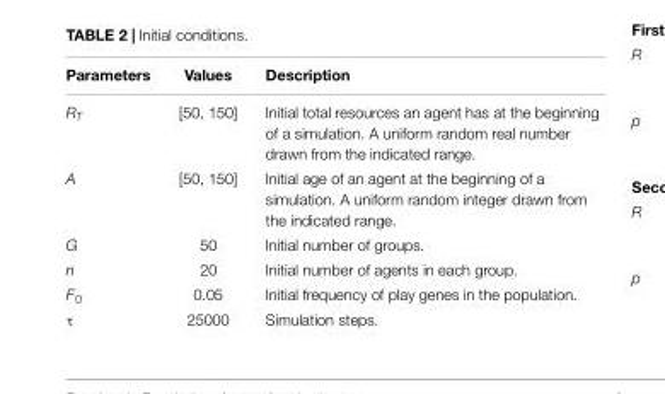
<table><thead><tr><td>Parameters</td><td>Values</td><td>Description</td></tr></thead><tbody><tr><td>R<sub>T</sub></td><td>[50, 150]</td><td>Initial total resources an agent has at the beginning of a simulation. A uniform random real number drawn from the indicated range.</td></tr><tr><td>A</td><td>[50, 150]</td><td>Initial age of an agent at the beginning of a simulation. A uniform random integer drawn from the indicated range.</td></tr><tr><td>G</td><td>50</td><td>Initial number of groups.</td></tr><tr><td>n</td><td>20</td><td>Initial number of agents in each group.</td></tr><tr><td>F<sub>0</sub></td><td>0.05</td><td>Initial frequency of play genes in the population.</td></tr><tr><td>τ</td><td>25000</td><td>Simulation steps.</td></tr></tbody></table>